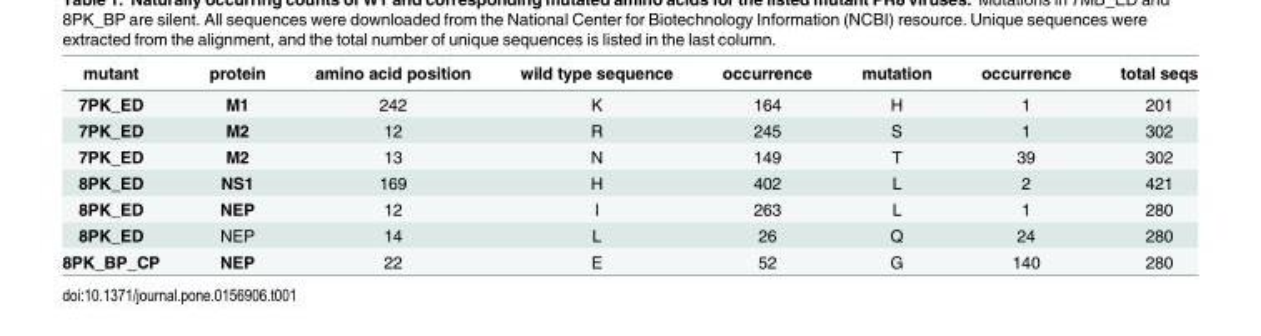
<table><thead><tr><td>mutant</td><td>protein</td><td>amino acid position</td><td>wild type sequence</td><td>occurrence</td><td>mutation</td><td>occurrence</td><td>total seqs</td></tr></thead><tbody><tr><td>7PK_ED</td><td>M1</td><td>242</td><td>K</td><td>164</td><td>H</td><td>1</td><td>201</td></tr><tr><td>7PK_ED</td><td>M2</td><td>12</td><td>R</td><td>245</td><td>S</td><td>1</td><td>302</td></tr><tr><td>7PK_ED</td><td>M2</td><td>13</td><td>N</td><td>149</td><td>T</td><td>39</td><td>302</td></tr><tr><td>8PK_ED</td><td>NS1</td><td>169</td><td>H</td><td>402</td><td>L</td><td>2</td><td>421</td></tr><tr><td>8PK_ED</td><td>NEP</td><td>12</td><td>I</td><td>263</td><td>L</td><td>1</td><td>280</td></tr><tr><td>8PK_ED</td><td>NEP</td><td>14</td><td>L</td><td>26</td><td>Q</td><td>24</td><td>280</td></tr><tr><td>8PK_BP_CP</td><td>NEP</td><td>22</td><td>E</td><td>52</td><td>G</td><td>140</td><td>280</td></tr></tbody></table>